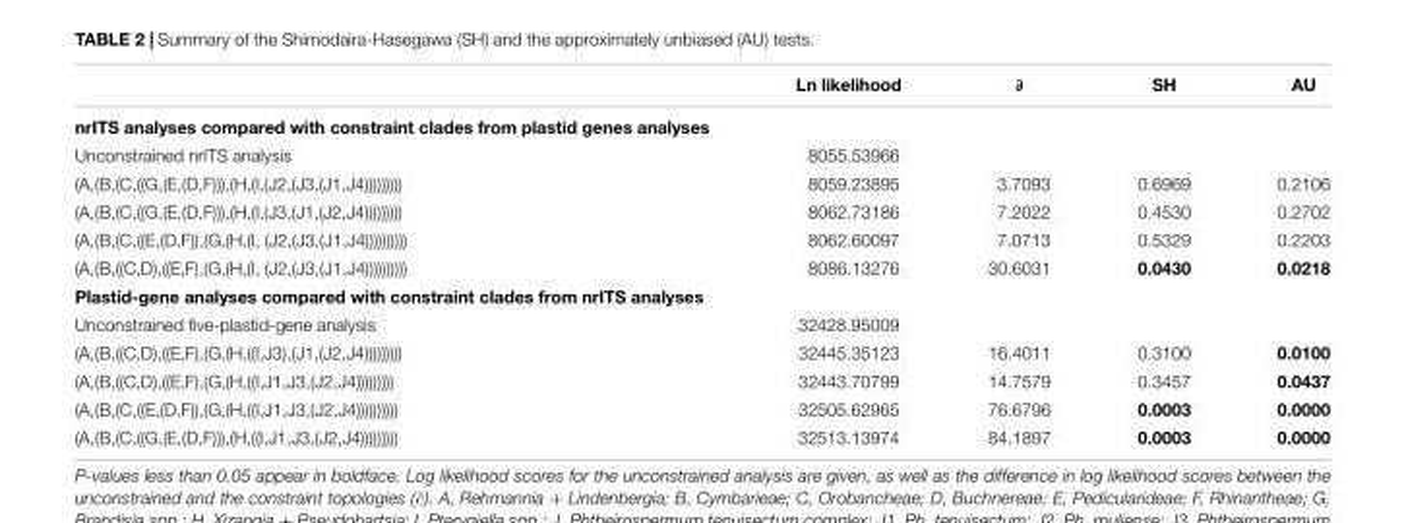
<table><thead><tr><td></td><td>Ln likelihood</td><td>∂</td><td>SH</td><td>AU</td></tr></thead><tbody><tr><td colspan="5">nrITS analyses compared with constraint clades from plastid genes analyses</td></tr><tr><td>Unconstrained nrITS analysis</td><td>8055.53966</td><td></td><td></td><td></td></tr><tr><td>(A,(B,(C,((G,(E,(D,F))),(H,(I,(J2,(J3,(J1,J4)))))))))</td><td>8059.23895</td><td>3.7093</td><td>0.6969</td><td>0.2106</td></tr><tr><td>(A,(B,(C,((G,(E,(D,F))),(H,(I,(J3,(J1,(J2,J4)))))))))</td><td>8062.73186</td><td>7.2022</td><td>0.4530</td><td>0.2702</td></tr><tr><td>(A,(B,(C,((E,(D,F)),(G,(H,(I, (J2,(J3,(J1,J4))))))))))</td><td>8062.60097</td><td>7.0713</td><td>0.5329</td><td>0.2203</td></tr><tr><td>(A,(B,((C,D),((E,F),(G,(H,(I, (J2,(J3,(J1,J4))))))))))</td><td>8086.13276</td><td>30.6031</td><td>0.0430</td><td>0.0218</td></tr><tr><td colspan="5">Plastid-gene analyses compared with constraint clades from nrITS analyses</td></tr><tr><td>Unconstrained five-plastid-gene analysis</td><td>32428.95009</td><td></td><td></td><td></td></tr><tr><td>(A,(B,((C,D),((E,F),(G,(H,((I,J3),(J1,(J2,J4)))))))))</td><td>32445.35123</td><td>16.4011</td><td>0.3100</td><td>0.0100</td></tr><tr><td>(A,(B,((C,D),((E,F),(G,(H,((I,J1,J3,(J2,J4)))))))))</td><td>32443.70799</td><td>14.7579</td><td>0.3457</td><td>0.0437</td></tr><tr><td>(A,(B,(C,((E,(D,F)),(G,(H,((I,J1,J3,(J2,J4))))))))))</td><td>32505.62965</td><td>76.6796</td><td>0.0003</td><td>0.0000</td></tr><tr><td>(A,(B,(C,((G,(E,(D,F))),(H,((I,J1,J3,(J2,J4)))))))))</td><td>32513.13974</td><td>84.1897</td><td>0.0003</td><td>0.0000</td></tr></tbody></table>